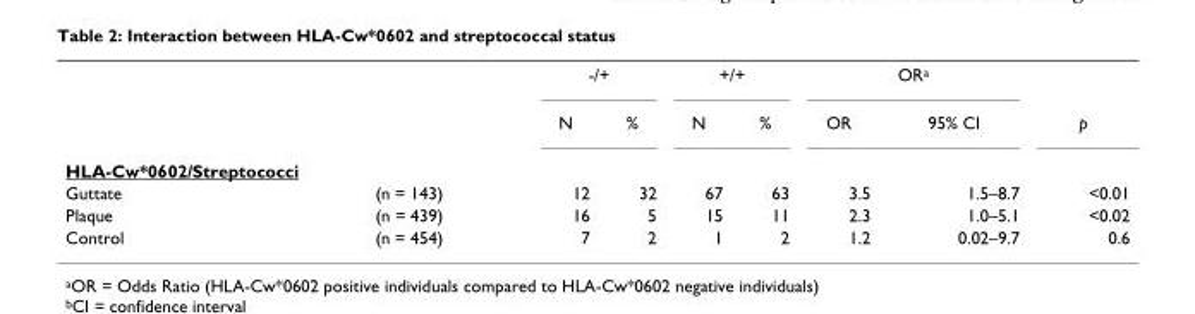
<table><thead><tr><td rowspan="2"></td><td rowspan="2"></td><td colspan="2">-/+</td><td colspan="2">+/+</td><td colspan="2">OR<sup>a</sup></td><td rowspan="2">p</td></tr><tr><td>N</td><td>%</td><td>N</td><td>%</td><td>OR</td><td>95% CI</td></tr></thead><tbody><tr><td colspan="9">HLA-Cw*0602/Streptococci</td></tr><tr><td>Guttate</td><td>(n = 143)</td><td>12</td><td>32</td><td>67</td><td>63</td><td>3.5</td><td>1.5–8.7</td><td>&lt;0.01</td></tr><tr><td>Plaque</td><td>(n = 439)</td><td>16</td><td>5</td><td>15</td><td>11</td><td>2.3</td><td>1.0–5.1</td><td>&lt;0.02</td></tr><tr><td>Control</td><td>(n = 454)</td><td>7</td><td>2</td><td>1</td><td>2</td><td>1.2</td><td>0.02–9.7</td><td>0.6</td></tr></tbody></table>